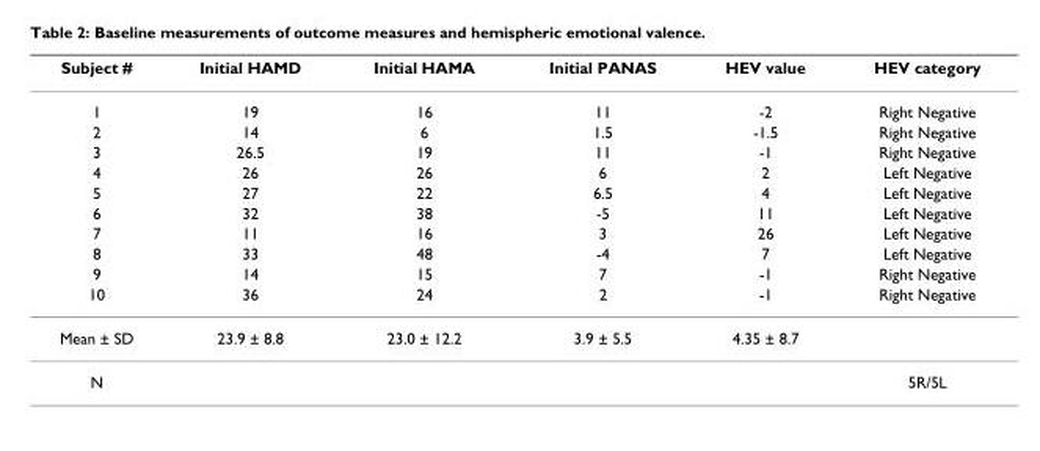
<table><thead><tr><td>Subject #</td><td>Initial HAMD</td><td>Initial HAMA</td><td>Initial PANAS</td><td>HEV value</td><td>HEV category</td></tr></thead><tbody><tr><td>1</td><td>19</td><td>16</td><td>11</td><td>-2</td><td>Right Negative</td></tr><tr><td>2</td><td>14</td><td>6</td><td>1.5</td><td>-1.5</td><td>Right Negative</td></tr><tr><td>3</td><td>26.5</td><td>19</td><td>11</td><td>-1</td><td>Right Negative</td></tr><tr><td>4</td><td>26</td><td>26</td><td>6</td><td>2</td><td>Left Negative</td></tr><tr><td>5</td><td>27</td><td>22</td><td>6.5</td><td>4</td><td>Left Negative</td></tr><tr><td>6</td><td>32</td><td>38</td><td>-5</td><td>11</td><td>Left Negative</td></tr><tr><td>7</td><td>11</td><td>16</td><td>3</td><td>26</td><td>Left Negative</td></tr><tr><td>8</td><td>33</td><td>48</td><td>-4</td><td>7</td><td>Left Negative</td></tr><tr><td>9</td><td>14</td><td>15</td><td>7</td><td>-1</td><td>Right Negative</td></tr><tr><td>10</td><td>36</td><td>24</td><td>2</td><td>-1</td><td>Right Negative</td></tr><tr><td>Mean ± SD</td><td>23.9 ± 8.8</td><td>23.0 ± 12.2</td><td>3.9 ± 5.5</td><td>4.35 ± 8.7</td><td></td></tr><tr><td>N</td><td></td><td></td><td></td><td></td><td>5R/5L</td></tr></tbody></table>